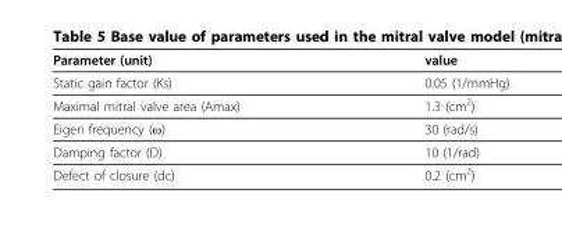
<table><thead><tr><td>Parameter (unit)</td><td>value</td></tr></thead><tbody><tr><td>Static gain factor (Ks)</td><td>0.05 (1/mmHg)</td></tr><tr><td>Maximal mitral valve area (Amax)</td><td>1.3 (cm<sup>2</sup>)</td></tr><tr><td>Eigen frequency (ω)</td><td>30 (rad/s)</td></tr><tr><td>Damping factor (D)</td><td>10 (1/rad)</td></tr><tr><td>Defect of closure (dc)</td><td>0.2 (cm2)</td></tr></tbody></table>